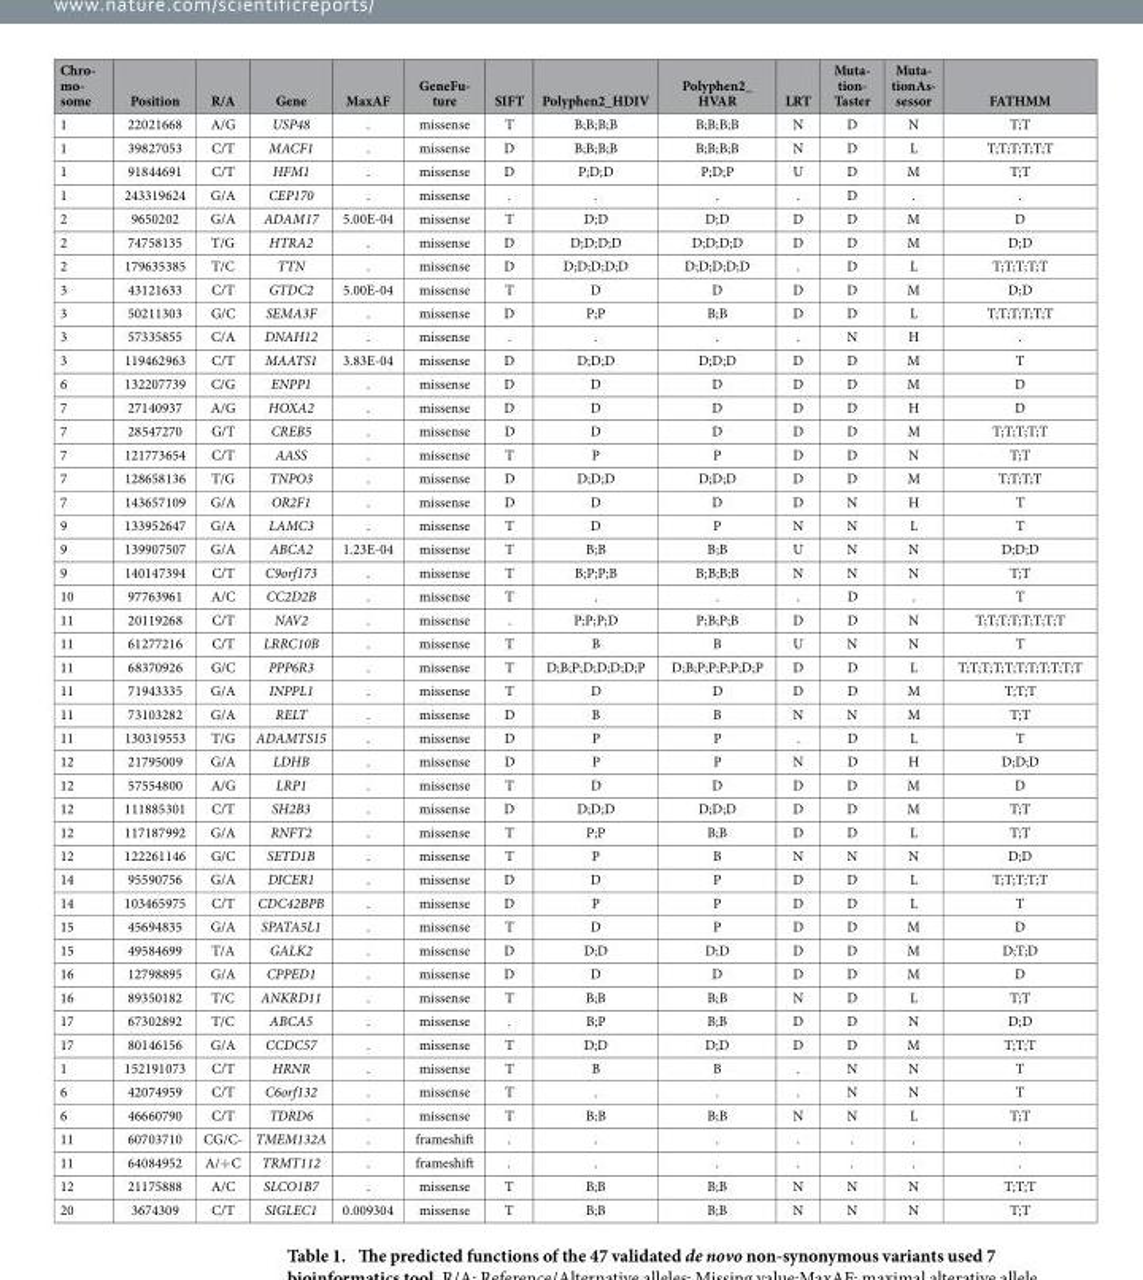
<table><thead><tr><td>Chro- mo- some</td><td>Position</td><td>R/A</td><td>Gene</td><td>MaxAF</td><td>GeneFu- ture</td><td>SIFT</td><td>Polyphen2_HDIV</td><td>Polyphen2_ HVAR</td><td>LRT</td><td>Muta- tion- Taster</td><td>Muta- tionAs- sessor</td><td>FATHMM</td></tr></thead><tbody><tr><td>1</td><td>22021668</td><td>A/G</td><td>USP48</td><td>.</td><td>missense</td><td>T</td><td>B;B;B;B</td><td>B;B;B;B</td><td>N</td><td>D</td><td>N</td><td>T;T</td></tr><tr><td>1</td><td>39827053</td><td>C/T</td><td>MACF1</td><td>.</td><td>missense</td><td>D</td><td>B;B;B;B</td><td>B;B;B;B</td><td>N</td><td>D</td><td>L</td><td>T;T;T;T;T;T</td></tr><tr><td>1</td><td>91844691</td><td>C/T</td><td>HFM1</td><td>.</td><td>missense</td><td>D</td><td>P;D;D</td><td>P;D;P</td><td>U</td><td>D</td><td>M</td><td>T;T</td></tr><tr><td>1</td><td>243319624</td><td>G/A</td><td>CEP170</td><td>.</td><td>missense</td><td>.</td><td>.</td><td>.</td><td>.</td><td>D</td><td>.</td><td>.</td></tr><tr><td>2</td><td>9650202</td><td>G/A</td><td>ADAM17</td><td>5.00E-04</td><td>missense</td><td>T</td><td>D;D</td><td>D;D</td><td>D</td><td>D</td><td>M</td><td>D</td></tr><tr><td>2</td><td>74758135</td><td>T/G</td><td>HTRA2</td><td>.</td><td>missense</td><td>D</td><td>D;D;D;D</td><td>D;D;D;D</td><td>D</td><td>D</td><td>M</td><td>D;D</td></tr><tr><td>2</td><td>179635385</td><td>T/C</td><td>TTN</td><td>.</td><td>missense</td><td>D</td><td>D;D;D;D;D</td><td>D;D;D;D;D</td><td>.</td><td>D</td><td>L</td><td>T;T;T;T;T</td></tr><tr><td>3</td><td>43121633</td><td>C/T</td><td>GTDC2</td><td>5.00E-04</td><td>missense</td><td>T</td><td>D</td><td>D</td><td>D</td><td>D</td><td>M</td><td>D;D</td></tr><tr><td>3</td><td>50211303</td><td>G/C</td><td>SEMA3F</td><td>.</td><td>missense</td><td>D</td><td>P;P</td><td>B;B</td><td>D</td><td>D</td><td>L</td><td>T;T;T;T;T;T</td></tr><tr><td>3</td><td>57335855</td><td>C/A</td><td>DNAH12</td><td>.</td><td>missense</td><td>.</td><td>.</td><td>.</td><td>.</td><td>N</td><td>H</td><td>.</td></tr><tr><td>3</td><td>119462963</td><td>C/T</td><td>MAATS1</td><td>3.83E-04</td><td>missense</td><td>D</td><td>D;D;D</td><td>D;D;D</td><td>D</td><td>D</td><td>M</td><td>T</td></tr><tr><td>6</td><td>132207739</td><td>C/G</td><td>ENPP1</td><td>.</td><td>missense</td><td>D</td><td>D</td><td>D</td><td>D</td><td>D</td><td>M</td><td>D</td></tr><tr><td>7</td><td>27140937</td><td>A/G</td><td>HOXA2</td><td>.</td><td>missense</td><td>D</td><td>D</td><td>D</td><td>D</td><td>D</td><td>H</td><td>D</td></tr><tr><td>7</td><td>28547270</td><td>G/T</td><td>CREB5</td><td>.</td><td>missense</td><td>D</td><td>D</td><td>D</td><td>D</td><td>D</td><td>M</td><td>T;T;T;T;T</td></tr><tr><td>7</td><td>121773654</td><td>C/T</td><td>AASS</td><td>.</td><td>missense</td><td>T</td><td>P</td><td>P</td><td>D</td><td>D</td><td>N</td><td>T;T</td></tr><tr><td>7</td><td>128658136</td><td>T/G</td><td>TNPO3</td><td>.</td><td>missense</td><td>D</td><td>D;D;D</td><td>D;D;D</td><td>D</td><td>D</td><td>M</td><td>T;T;T;T</td></tr><tr><td>7</td><td>143657109</td><td>G/A</td><td>OR2F1</td><td>.</td><td>missense</td><td>D</td><td>D</td><td>D</td><td>D</td><td>N</td><td>H</td><td>T</td></tr><tr><td>9</td><td>133952647</td><td>G/A</td><td>LAMC3</td><td>.</td><td>missense</td><td>T</td><td>D</td><td>P</td><td>N</td><td>N</td><td>L</td><td>T</td></tr><tr><td>9</td><td>139907507</td><td>G/A</td><td>ABCA2</td><td>1.23E-04</td><td>missense</td><td>T</td><td>B;B</td><td>B;B</td><td>U</td><td>N</td><td>N</td><td>D;D;D</td></tr><tr><td>9</td><td>140147394</td><td>C/T</td><td>C9orf173</td><td>.</td><td>missense</td><td>T</td><td>B;P;P;B</td><td>B;B;B;B</td><td>N</td><td>N</td><td>N</td><td>T;T</td></tr><tr><td>10</td><td>97763961</td><td>A/C</td><td>CC2D2B</td><td>.</td><td>missense</td><td>T</td><td>.</td><td>.</td><td>.</td><td>D</td><td>.</td><td>T</td></tr><tr><td>11</td><td>20119268</td><td>C/T</td><td>NAV2</td><td>.</td><td>missense</td><td>.</td><td>P;P;P;D</td><td>P;B;P;B</td><td>D</td><td>D</td><td>N</td><td>T;T;T;T;T;T;T;T</td></tr><tr><td>11</td><td>61277216</td><td>C/T</td><td>LRRC10B</td><td>.</td><td>missense</td><td>T</td><td>B</td><td>B</td><td>U</td><td>N</td><td>N</td><td>T</td></tr><tr><td>11</td><td>68370926</td><td>G/C</td><td>PPP6R3</td><td>.</td><td>missense</td><td>T</td><td>D;B;P;D;D;D;D;P</td><td>D;B;P;P;P;P;D;P</td><td>D</td><td>D</td><td>L</td><td>T;T;T;T;T;T;T;T;T;T;T</td></tr><tr><td>11</td><td>71943335</td><td>G/A</td><td>INPPL1</td><td>.</td><td>missense</td><td>T</td><td>D</td><td>D</td><td>D</td><td>D</td><td>M</td><td>T;T;T</td></tr><tr><td>11</td><td>73103282</td><td>G/A</td><td>RELT</td><td>.</td><td>missense</td><td>D</td><td>B</td><td>B</td><td>N</td><td>N</td><td>M</td><td>T;T</td></tr><tr><td>11</td><td>130319553</td><td>T/G</td><td>ADAMTS15</td><td>.</td><td>missense</td><td>D</td><td>P</td><td>P</td><td>.</td><td>D</td><td>L</td><td>T</td></tr><tr><td>12</td><td>21795009</td><td>G/A</td><td>LDHB</td><td>.</td><td>missense</td><td>D</td><td>P</td><td>P</td><td>N</td><td>D</td><td>H</td><td>D;D;D</td></tr><tr><td>12</td><td>57554800</td><td>A/G</td><td>LRP1</td><td>.</td><td>missense</td><td>T</td><td>D</td><td>D</td><td>D</td><td>D</td><td>M</td><td>D</td></tr><tr><td>12</td><td>111885301</td><td>C/T</td><td>SH2B3</td><td>.</td><td>missense</td><td>D</td><td>D;D;D</td><td>D;D;D</td><td>D</td><td>D</td><td>M</td><td>T;T</td></tr><tr><td>12</td><td>117187992</td><td>G/A</td><td>RNFT2</td><td>.</td><td>missense</td><td>T</td><td>P;P</td><td>B;B</td><td>D</td><td>D</td><td>L</td><td>T;T</td></tr><tr><td>12</td><td>122261146</td><td>G/C</td><td>SETD1B</td><td>.</td><td>missense</td><td>T</td><td>P</td><td>B</td><td>N</td><td>N</td><td>N</td><td>D;D</td></tr><tr><td>14</td><td>95590756</td><td>G/A</td><td>DICER1</td><td>.</td><td>missense</td><td>D</td><td>D</td><td>P</td><td>D</td><td>D</td><td>L</td><td>T;T;T;T;T</td></tr><tr><td>14</td><td>103465975</td><td>C/T</td><td>CDC42BPB</td><td>.</td><td>missense</td><td>D</td><td>P</td><td>P</td><td>D</td><td>D</td><td>L</td><td>T</td></tr><tr><td>15</td><td>45694835</td><td>G/A</td><td>SPATA5L1</td><td>.</td><td>missense</td><td>T</td><td>D</td><td>P</td><td>D</td><td>D</td><td>M</td><td>D</td></tr><tr><td>15</td><td>49584699</td><td>T/A</td><td>GALK2</td><td>.</td><td>missense</td><td>D</td><td>D;D</td><td>D;D</td><td>D</td><td>D</td><td>M</td><td>D;T;D</td></tr><tr><td>16</td><td>12798895</td><td>G/A</td><td>CPPED1</td><td>.</td><td>missense</td><td>D</td><td>D</td><td>D</td><td>D</td><td>D</td><td>M</td><td>D</td></tr><tr><td>16</td><td>89350182</td><td>T/C</td><td>ANKRD11</td><td>.</td><td>missense</td><td>T</td><td>B;B</td><td>B;B</td><td>N</td><td>D</td><td>L</td><td>T;T</td></tr><tr><td>17</td><td>67302892</td><td>T/C</td><td>ABCA5</td><td>.</td><td>missense</td><td>.</td><td>B;P</td><td>B;B</td><td>D</td><td>D</td><td>N</td><td>D;D</td></tr><tr><td>17</td><td>80146156</td><td>G/A</td><td>CCDC57</td><td>.</td><td>missense</td><td>T</td><td>D;D</td><td>D;D</td><td>D</td><td>D</td><td>M</td><td>T;T;T</td></tr><tr><td>1</td><td>152191073</td><td>C/T</td><td>HRNR</td><td>.</td><td>missense</td><td>T</td><td>B</td><td>B</td><td>.</td><td>N</td><td>N</td><td>T</td></tr><tr><td>6</td><td>42074959</td><td>C/T</td><td>C6orf132</td><td>.</td><td>missense</td><td>T</td><td>.</td><td>.</td><td>.</td><td>N</td><td>N</td><td>T</td></tr><tr><td>6</td><td>46660790</td><td>C/T</td><td>TDRD6</td><td>.</td><td>missense</td><td>T</td><td>B;B</td><td>B;B</td><td>N</td><td>N</td><td>L</td><td>T;T</td></tr><tr><td>11</td><td>60703710</td><td>CG/C-</td><td>TMEM132A</td><td>.</td><td>frameshift</td><td>.</td><td>.</td><td>.</td><td>.</td><td>.</td><td>.</td><td>.</td></tr><tr><td>11</td><td>64084952</td><td>A/+ C</td><td>TRMT112</td><td>.</td><td>frameshift</td><td>.</td><td>.</td><td>.</td><td>.</td><td>.</td><td>.</td><td>.</td></tr><tr><td>12</td><td>21175888</td><td>A/C</td><td>SLCO1B7</td><td>.</td><td>missense</td><td>T</td><td>B;B</td><td>B;B</td><td>N</td><td>N</td><td>N</td><td>T;T;T</td></tr><tr><td>20</td><td>3674309</td><td>C/T</td><td>SIGLEC1</td><td>0.009304</td><td>missense</td><td>T</td><td>B;B</td><td>B;B</td><td>N</td><td>N</td><td>N</td><td>T;T</td></tr></tbody></table>